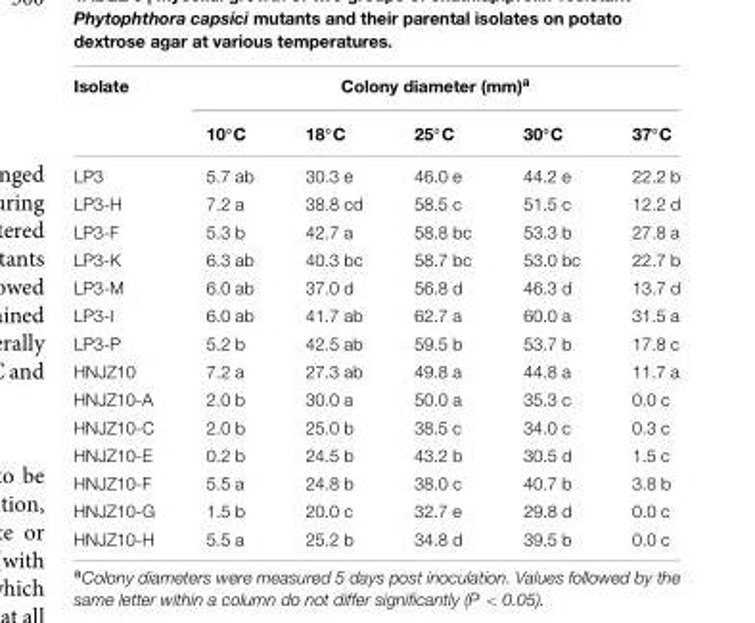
<table><thead><tr><td rowspan="2">Isolate</td><td colspan="5">Colony diameter (mm)<sup>a</sup></td></tr><tr><td>10◦C</td><td>18◦C</td><td>25◦C</td><td>30◦C</td><td>37◦C</td></tr></thead><tbody><tr><td>LP3</td><td>5.7 ab</td><td>30.3 e</td><td>46.0 e</td><td>44.2 e</td><td>22.2 b</td></tr><tr><td>LP3-H</td><td>7.2 a</td><td>38.8 cd</td><td>58.5 c</td><td>51.5 c</td><td>12.2 d</td></tr><tr><td>LP3-F</td><td>5.3 b</td><td>42.7 a</td><td>58.8 bc</td><td>53.3 b</td><td>27.8 a</td></tr><tr><td>LP3-K</td><td>6.3 ab</td><td>40.3 bc</td><td>58.7 bc</td><td>53.0 bc</td><td>22.7 b</td></tr><tr><td>LP3-M</td><td>6.0 ab</td><td>37.0 d</td><td>56.8 d</td><td>46.3 d</td><td>13.7 d</td></tr><tr><td>LP3-I</td><td>6.0 ab</td><td>41.7 ab</td><td>62.7 a</td><td>60.0 a</td><td>31.5 a</td></tr><tr><td>LP3-P</td><td>5.2 b</td><td>42.5 ab</td><td>59.5 b</td><td>53.7 b</td><td>17.8 c</td></tr><tr><td>HNJZ10</td><td>7.2 a</td><td>27.3 ab</td><td>49.8 a</td><td>44.8 a</td><td>11.7 a</td></tr><tr><td>HNJZ10-A</td><td>2.0 b</td><td>30.0 a</td><td>50.0 a</td><td>35.3 c</td><td>0.0 c</td></tr><tr><td>HNJZ10-C</td><td>2.0 b</td><td>25.0 b</td><td>38.5 c</td><td>34.0 c</td><td>0.3 c</td></tr><tr><td>HNJZ10-E</td><td>0.2 b</td><td>24.5 b</td><td>43.2 b</td><td>30.5 d</td><td>1.5 c</td></tr><tr><td>HNJZ10-F</td><td>5.5 a</td><td>24.8 b</td><td>38.0 c</td><td>40.7 b</td><td>3.8 b</td></tr><tr><td>HNJZ10-G</td><td>1.5 b</td><td>20.0 c</td><td>32.7 e</td><td>29.8 d</td><td>0.0 c</td></tr><tr><td>HNJZ10-H</td><td>5.5 a</td><td>25.2 b</td><td>34.8 d</td><td>39.5 b</td><td>0.0 c</td></tr></tbody></table>